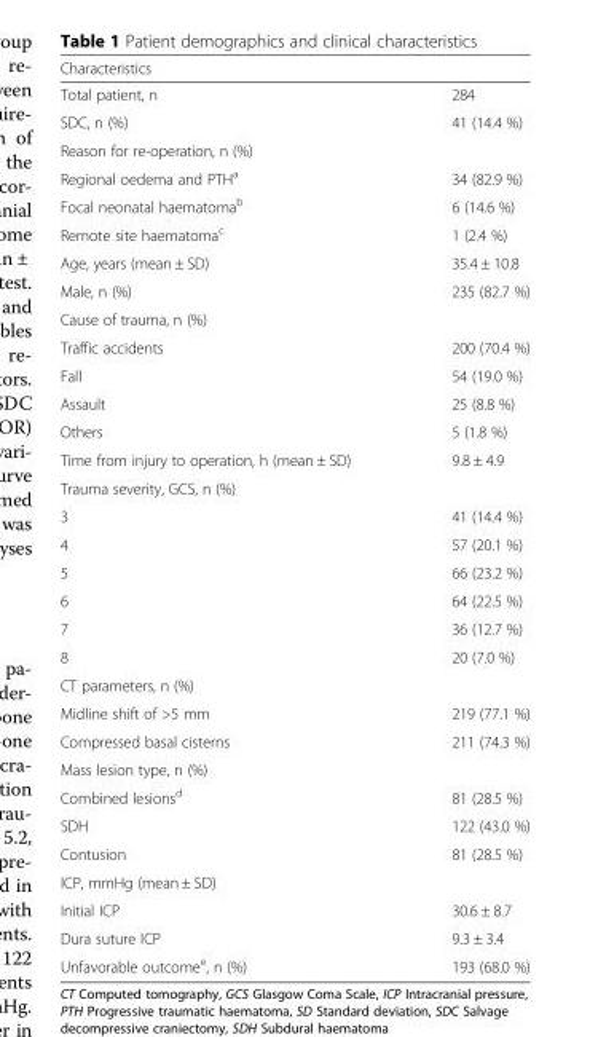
<table><thead><tr><td>Characteristics</td><td></td></tr></thead><tbody><tr><td>Total patient, n</td><td>284</td></tr><tr><td>SDC, n (%)</td><td>41 (14.4 %)</td></tr><tr><td colspan="2">Reason for re-operation, n (%)</td></tr><tr><td>Regional oedema and PTH<sup>a</sup></td><td>34 (82.9 %)</td></tr><tr><td>Focal neonatal haematoma<sup>b</sup></td><td>6 (14.6 %)</td></tr><tr><td>Remote site haematoma<sup>c</sup></td><td>1 (2.4 %)</td></tr><tr><td>Age, years (mean ± SD)</td><td>35.4 ± 10.8</td></tr><tr><td>Male, n (%)</td><td>235 (82.7 %)</td></tr><tr><td colspan="2">Cause of trauma, n (%)</td></tr><tr><td>Traffic accidents</td><td>200 (70.4 %)</td></tr><tr><td>Fall</td><td>54 (19.0 %)</td></tr><tr><td>Assault</td><td>25 (8.8 %)</td></tr><tr><td>Others</td><td>5 (1.8 %)</td></tr><tr><td>Time from injury to operation, h (mean ± SD)</td><td>9.8 ± 4.9</td></tr><tr><td colspan="2">Trauma severity, GCS, n (%)</td></tr><tr><td>3</td><td>41 (14.4 %)</td></tr><tr><td>4</td><td>57 (20.1 %)</td></tr><tr><td>5</td><td>66 (23.2 %)</td></tr><tr><td>6</td><td>64 (22.5 %)</td></tr><tr><td>7</td><td>36 (12.7 %)</td></tr><tr><td>8</td><td>20 (7.0 %)</td></tr><tr><td colspan="2">CT parameters, n (%)</td></tr><tr><td>Midline shift of &gt;5 mm</td><td>219 (77.1 %)</td></tr><tr><td>Compressed basal cisterns</td><td>211 (74.3 %)</td></tr><tr><td colspan="2">Mass lesion type, n (%)</td></tr><tr><td>Combined lesions<sup>d</sup></td><td>81 (28.5 %)</td></tr><tr><td>SDH</td><td>122 (43.0 %)</td></tr><tr><td>Contusion</td><td>81 (28.5 %)</td></tr><tr><td colspan="2">ICP, mmHg (mean ± SD)</td></tr><tr><td>Initial ICP</td><td>30.6 ± 8.7</td></tr><tr><td>Dura suture ICP</td><td>9.3 ± 3.4</td></tr><tr><td>Unfavorable outcome<sup>e</sup>, n (%)</td><td>193 (68.0 %)</td></tr></tbody></table>